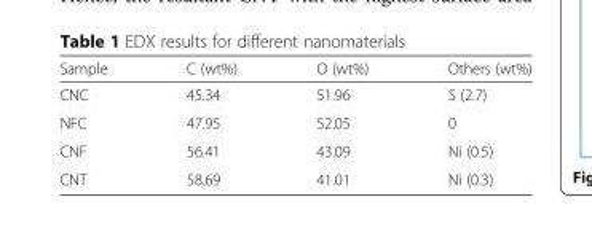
<table><thead><tr><td>Sample</td><td>C (wt%)</td><td>O (wt%)</td><td>Others (wt%)</td></tr></thead><tbody><tr><td>CNC</td><td>45.34</td><td>51.96</td><td>S (2.7)</td></tr><tr><td>NFC</td><td>47.95</td><td>52.05</td><td>0</td></tr><tr><td>CNF</td><td>56.41</td><td>43.09</td><td>Ni (0.5)</td></tr><tr><td>CNT</td><td>58.69</td><td>41.01</td><td>Ni (0.3)</td></tr></tbody></table>